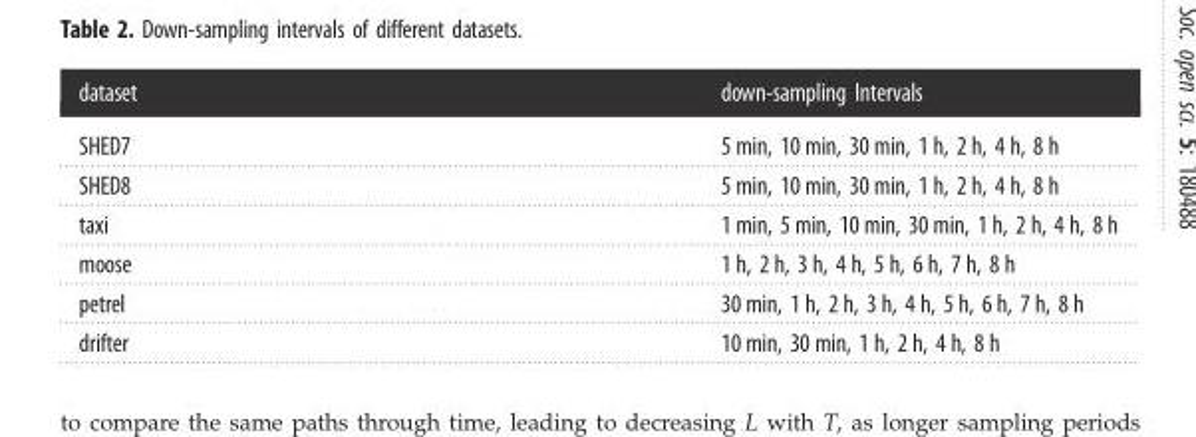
<table><thead><tr><td>dataset</td><td>down-sampling Intervals</td></tr></thead><tbody><tr><td>SHED7</td><td>5 min, 10 min, 30 min, 1 h, 2 h, 4 h, 8 h</td></tr><tr><td>SHED8</td><td>5 min, 10 min, 30 min, 1 h, 2 h, 4 h, 8 h</td></tr><tr><td>taxi</td><td>1 min, 5 min, 10 min, 30 min, 1 h, 2 h, 4 h, 8 h</td></tr><tr><td>moose</td><td>1 h, 2 h, 3 h, 4 h, 5 h, 6 h, 7 h, 8 h</td></tr><tr><td>petrel</td><td>30 min, 1 h, 2 h, 3 h, 4 h, 5 h, 6 h, 7 h, 8 h</td></tr><tr><td>drifter</td><td>10 min, 30 min, 1 h, 2 h, 4 h, 8 h</td></tr></tbody></table>